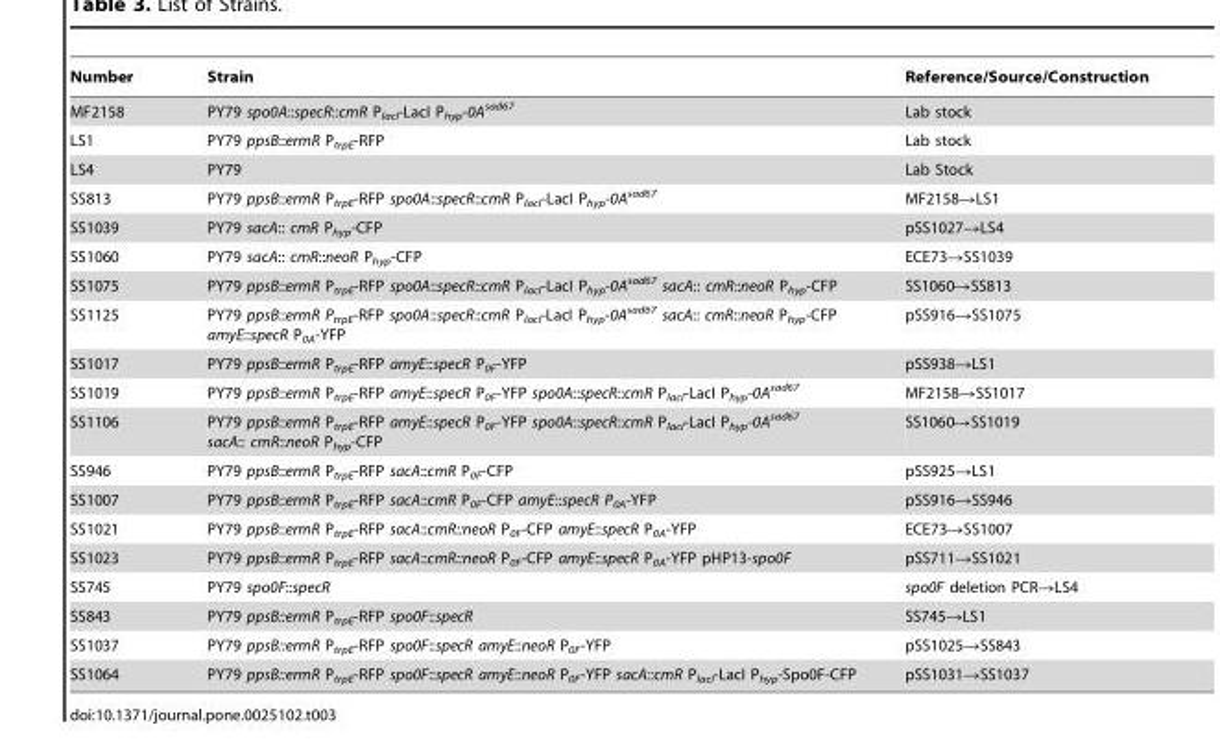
<table><thead><tr><td>Number</td><td>Strain</td><td>Reference/Source/Construction</td></tr></thead><tbody><tr><td>MF2158</td><td>PY79 spo0A::specR::cmR P<sub>lacI</sub>-LacI P<sub>hyp</sub>-0A<sup>sad67</sup></td><td>Lab stock</td></tr><tr><td>LS1</td><td>PY79 ppsB::ermR P<sub>trpE</sub>-RFP</td><td>Lab stock</td></tr><tr><td>LS4</td><td>PY79</td><td>Lab Stock</td></tr><tr><td>SS813</td><td>PY79 ppsB::ermR P<sub>trpE</sub>-RFP spo0A::specR::cmR P<sub>lacI</sub>-LacI P<sub>hyp</sub>-0A<sup>sad67</sup></td><td>MF2158→LS1</td></tr><tr><td>SS1039</td><td>PY79 sacA:: cmR P<sub>hyp</sub>-CFP</td><td>pSS1027→LS4</td></tr><tr><td>SS1060</td><td>PY79 sacA:: cmR::neoR P<sub>hyp</sub>-CFP</td><td>ECE73→SS1039</td></tr><tr><td>SS1075</td><td>PY79 ppsB::ermR P<sub>trpE</sub>-RFP spo0A::specR::cmR P<sub>lacI</sub>-LacI P<sub>hyp</sub>-0A<sup>sad67</sup> sacA:: cmR::neoR P<sub>hyp</sub>-CFP</td><td>SS1060→SS813</td></tr><tr><td>SS1125</td><td>PY79 ppsB::ermR P<sub>trpE</sub>-RFP spo0A::specR::cmR P<sub>lacI</sub>-LacI P<sub>hyp</sub>-0A<sup>sad67</sup> sacA:: cmR::neoR P<sub>hyp</sub>-CFP amyE::specR P<sub>0A</sub>-YFP</td><td>pSS916→SS1075</td></tr><tr><td>SS1017</td><td>PY79 ppsB::ermR P<sub>trpE</sub>-RFP amyE::specR P<sub>0F</sub>-YFP</td><td>pSS938→LS1</td></tr><tr><td>SS1019</td><td>PY79 ppsB::ermR P<sub>trpE</sub>-RFP amyE::specR P<sub>0F</sub>-YFP spo0A::specR::cmR P<sub>lacI</sub>-LacI P<sub>hyp</sub>-0A<sup>sad67</sup></td><td>MF2158→SS1017</td></tr><tr><td>SS1106</td><td>PY79 ppsB::ermR P<sub>trpE</sub>-RFP amyE::specR P<sub>0F</sub>-YFP spo0A::specR::cmR P<sub>lacI</sub>-LacI P<sub>hyp</sub>-0A<sup>sad67</sup> sacA:: cmR::neoR P<sub>hyp</sub>-CFP</td><td>SS1060→SS1019</td></tr><tr><td>SS946</td><td>PY79 ppsB::ermR P<sub>trpE</sub>-RFP sacA::cmR P<sub>0F</sub>-CFP</td><td>pSS925→LS1</td></tr><tr><td>SS1007</td><td>PY79 ppsB::ermR P<sub>trpE</sub>-RFP sacA::cmR P<sub>0F</sub>-CFP amyE::specR P<sub>0A</sub>-YFP</td><td>pSS916→SS946</td></tr><tr><td>SS1021</td><td>PY79 ppsB::ermR P<sub>trpE</sub>-RFP sacA::cmR::neoR P<sub>0F</sub>-CFP amyE::specR P<sub>0A</sub>-YFP</td><td>ECE73→SS1007</td></tr><tr><td>SS1023</td><td>PY79 ppsB::ermR P<sub>trpE</sub>-RFP sacA::cmR::neoR P<sub>0F</sub>-CFP amyE::specR P<sub>0A</sub>-YFP pHP13-spo0F</td><td>pSS711→SS1021</td></tr><tr><td>SS745</td><td>PY79 spo0F::specR</td><td>spo0F deletion PCR→LS4</td></tr><tr><td>SS843</td><td>PY79 ppsB::ermR P<sub>trpE</sub>-RFP spo0F::specR</td><td>SS745→LS1</td></tr><tr><td>SS1037</td><td>PY79 ppsB::ermR P<sub>trpE</sub>-RFP spo0F::specR amyE::neoR P<sub>0F</sub>-YFP</td><td>pSS1025→SS843</td></tr><tr><td>SS1064</td><td>PY79 ppsB::ermR P<sub>trpE</sub>-RFP spo0F::specR amyE::neoR P<sub>0F</sub>-YFP sacA::cmR P<sub>lacI</sub>-LacI P<sub>hyp</sub>-Spo0F-CFP</td><td>pSS1031→SS1037</td></tr></tbody></table>